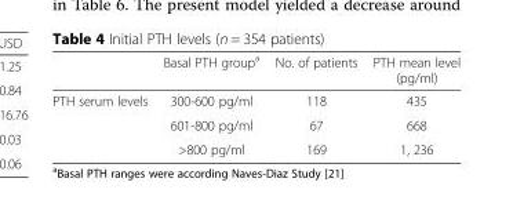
<table><thead><tr><td></td><td>Basal PTH group<sup>a</sup></td><td>No. of patients</td><td>PTH mean level (pg/ml)</td></tr></thead><tbody><tr><td rowspan="3">PTH serum levels</td><td>300-600 pg/ml</td><td>118</td><td>435</td></tr><tr><td>601-800 pg/ml</td><td>67</td><td>668</td></tr><tr><td>&gt;800 pg/ml</td><td>169</td><td>1, 236</td></tr></tbody></table>